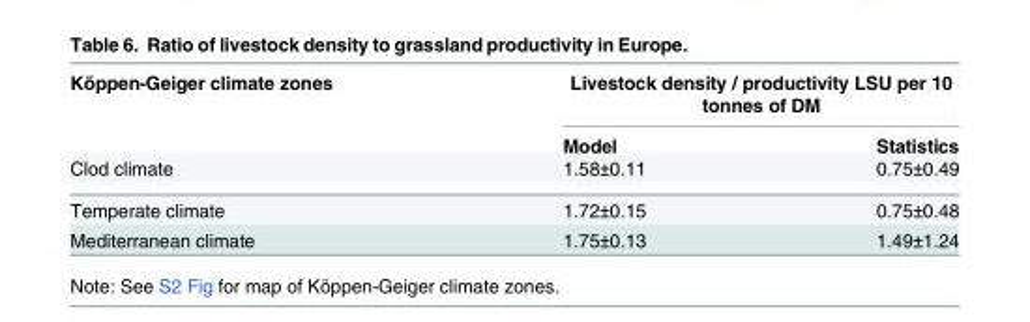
<table><thead><tr><td rowspan="3">Köppen-Geiger climate zones Clod climate</td><td colspan="2">Livestock density / productivity LSU per 10 tonnes of DM</td></tr><tr><td rowspan="2">Model 1.58±0.11</td><td rowspan="2">Statistics 0.75±0.49</td></tr><tr></tr></thead><tbody><tr><td>Temperate climate</td><td>1.72±0.15</td><td>0.75±0.48</td></tr><tr><td>Mediterranean climate</td><td>1.75±0.13</td><td>1.49±1.24</td></tr></tbody></table>